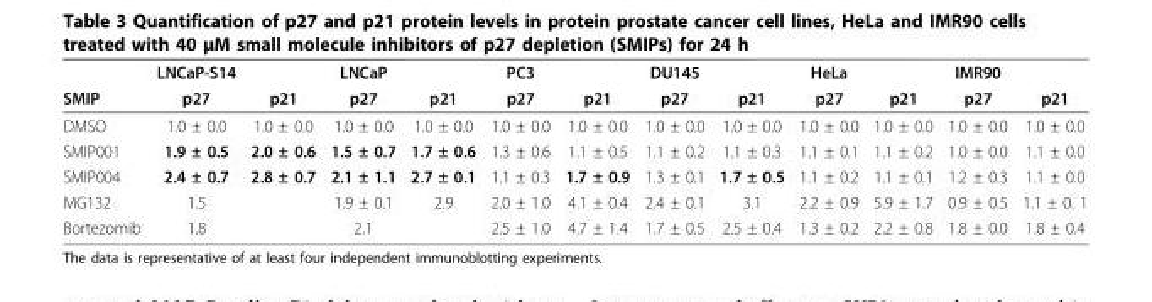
<table><thead><tr><td rowspan="2">SMIP</td><td rowspan="2">LNCaP-S14 p27</td><td rowspan="2">p21</td><td rowspan="2">LNCaP p27</td><td rowspan="2">p21</td><td rowspan="2">PC3 p27</td><td rowspan="2">p21</td><td rowspan="2">DU145 p27</td><td rowspan="2">p21</td><td rowspan="2">HeLa p27</td><td rowspan="2">p21</td><td rowspan="2">IMR90 p27</td><td rowspan="2">p21</td></tr><tr></tr></thead><tbody><tr><td>DMSO</td><td>1.0 ± 0.0</td><td>1.0 ± 0.0</td><td>1.0 ± 0.0</td><td>1.0 ± 0.0</td><td>1.0 ± 0.0</td><td>1.0 ± 0.0</td><td>1.0 ± 0.0</td><td>1.0 ± 0.0</td><td>1.0 ± 0.0</td><td>1.0 ± 0.0</td><td>1.0 ± 0.0</td><td>1.0 ± 0.0</td></tr><tr><td>SMIP001</td><td>1.9 ± 0.5</td><td>2.0 ± 0.6</td><td>1.5 ± 0.7</td><td>1.7 ± 0.6</td><td>1.3 ± 0.6</td><td>1.1 ± 0.5</td><td>1.1 ± 0.2</td><td>1.1 ± 0.3</td><td>1.1 ± 0.1</td><td>1.1 ± 0.2</td><td>1.0 ± 0.0</td><td>1.1 ± 0.0</td></tr><tr><td>SMIP004</td><td>2.4 ± 0.7</td><td>2.8 ± 0.7</td><td>2.1 ± 1.1</td><td>2.7 ± 0.1</td><td>1.1 ± 0.3</td><td>1.7 ± 0.9</td><td>1.3 ± 0.1</td><td>1.7 ± 0.5</td><td>1.1 ± 0.2</td><td>1.1 ± 0.1</td><td>1.2 ± 0.3</td><td>1.1 ± 0.0</td></tr><tr><td>MG132</td><td>1.5</td><td></td><td>1.9 ± 0.1</td><td>2.9</td><td>2.0 ± 1.0</td><td>4.1 ± 0.4</td><td>2.4 ± 0.1</td><td>3.1</td><td>2.2 ± 0.9</td><td>5.9 ± 1.7</td><td>0.9 ± 0.5</td><td>1.1 ± 0. 1</td></tr><tr><td>Bortezomib</td><td>1.8</td><td></td><td>2.1</td><td></td><td>2.5 ± 1.0</td><td>4.7 ± 1.4</td><td>1.7 ± 0.5</td><td>2.5 ± 0.4</td><td>1.3 ± 0.2</td><td>2.2 ± 0.8</td><td>1.8 ± 0.0</td><td>1.8 ± 0.4</td></tr></tbody></table>